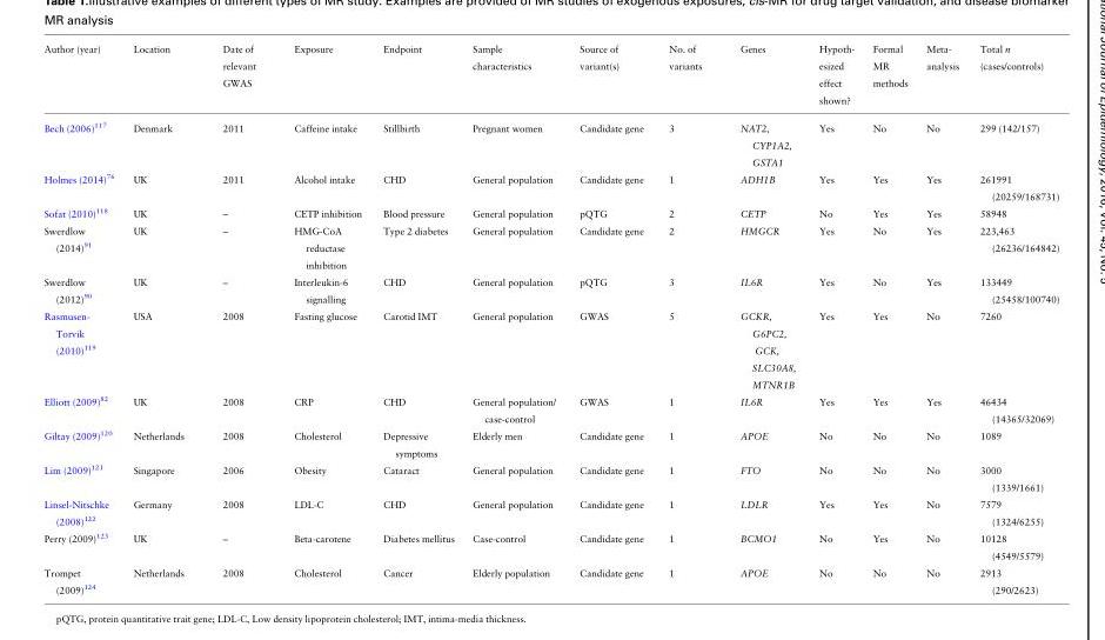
<table><thead><tr><td>Author (year)</td><td>Location</td><td>Date of relevant GWAS</td><td>Exposure</td><td>Endpoint</td><td>Sample characteristics</td><td>Source of variant(s)</td><td>No. of variants</td><td>Genes</td><td>Hypoth- esized effect shown?</td><td>Formal MR methods</td><td>Meta- analysis</td><td>Total n (cases/controls)</td></tr></thead><tbody><tr><td>Bech (2006)<sup>117</sup></td><td>Denmark</td><td>2011</td><td>Caffeine intake</td><td>Stillbirth</td><td>Pregnant women</td><td>Candidate gene</td><td>3</td><td>NAT2, CYP1A2, GSTA1</td><td>Yes</td><td>No</td><td>No</td><td>299 (142/157)</td></tr><tr><td>Holmes (2014)<sup>76</sup></td><td>UK</td><td>2011</td><td>Alcohol intake</td><td>CHD</td><td>General population</td><td>Candidate gene</td><td>1</td><td>ADH1B</td><td>Yes</td><td>Yes</td><td>Yes</td><td>261991 (20259/168731)</td></tr><tr><td>Sofat (2010)<sup>118</sup></td><td>UK</td><td>–</td><td>CETP inhibition</td><td>Blood pressure</td><td>General population</td><td>pQTG</td><td>2</td><td>CETP</td><td>No</td><td>Yes</td><td>Yes</td><td>58948</td></tr><tr><td>Swerdlow (2014)<sup>91</sup></td><td>UK</td><td>–</td><td>HMG-CoA reductase inhibition</td><td>Type 2 diabetes</td><td>General population</td><td>Candidate gene</td><td>2</td><td>HMGCR</td><td>Yes</td><td>No</td><td>Yes</td><td>223,463 (26236/164842)</td></tr><tr><td>Swerdlow (2012)<sup>90</sup></td><td>UK</td><td>–</td><td>Interleukin-6 signalling</td><td>CHD</td><td>General population</td><td>pQTG</td><td>3</td><td>IL6R</td><td>Yes</td><td>No</td><td>Yes</td><td>133449 (25458/100740)</td></tr><tr><td>Rasmusen- Torvik (2010)<sup>119</sup></td><td>USA</td><td>2008</td><td>Fasting glucose</td><td>Carotid IMT</td><td>General population</td><td>GWAS</td><td>5</td><td>GCKR, G6PC2, GCK, SLC30A8, MTNR1B</td><td>Yes</td><td>Yes</td><td>No</td><td>7260</td></tr><tr><td>Elliott (2009)<sup>82</sup></td><td>UK</td><td>2008</td><td>CRP</td><td>CHD</td><td>General population/ case-control</td><td>GWAS</td><td>1</td><td>IL6R</td><td>Yes</td><td>Yes</td><td>Yes</td><td>46434 (14365/32069)</td></tr><tr><td>Giltay (2009)<sup>120</sup></td><td>Netherlands</td><td>2008</td><td>Cholesterol</td><td>Depressive symptoms</td><td>Elderly men</td><td>Candidate gene</td><td>1</td><td>APOE</td><td>No</td><td>No</td><td>No</td><td>1089</td></tr><tr><td>Lim (2009)<sup>121</sup></td><td>Singapore</td><td>2006</td><td>Obesity</td><td>Cataract</td><td>General population</td><td>Candidate gene</td><td>1</td><td>FTO</td><td>No</td><td>No</td><td>No</td><td>3000 (1339/1661)</td></tr><tr><td>Linsel-Nitschke (2008)<sup>122</sup></td><td>Germany</td><td>2008</td><td>LDL-C</td><td>CHD</td><td>General population</td><td>Candidate gene</td><td>1</td><td>LDLR</td><td>Yes</td><td>Yes</td><td>No</td><td>7579 (1324/6255)</td></tr><tr><td>Perry (2009)<sup>123</sup></td><td>UK</td><td>–</td><td>Beta-carotene</td><td>Diabetes mellitus</td><td>Case-control</td><td>Candidate gene</td><td>1</td><td>BCMO1</td><td>No</td><td>Yes</td><td>No</td><td>10128 (4549/5579)</td></tr><tr><td>Trompet (2009)<sup>124</sup></td><td>Netherlands</td><td>2008</td><td>Cholesterol</td><td>Cancer</td><td>Elderly population</td><td>Candidate gene</td><td>1</td><td>APOE</td><td>No</td><td>No</td><td>No</td><td>2913 (290/2623)</td></tr></tbody></table>